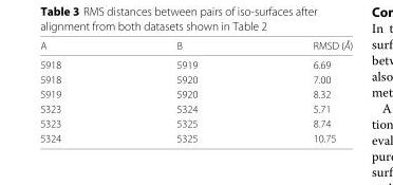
<table><thead><tr><td>A</td><td>B</td><td>RMSD (Å)</td></tr></thead><tbody><tr><td>5918</td><td>5919</td><td>6.69</td></tr><tr><td>5918</td><td>5920</td><td>7.00</td></tr><tr><td>5919</td><td>5920</td><td>8.32</td></tr><tr><td>5323</td><td>5324</td><td>5.71</td></tr><tr><td>5323</td><td>5325</td><td>8.74</td></tr><tr><td>5324</td><td>5325</td><td>10.75</td></tr></tbody></table>